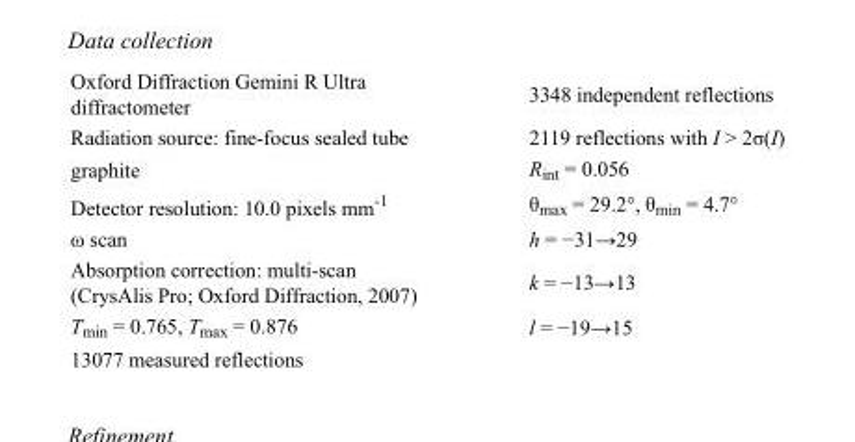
<table><tbody><tr><td>Oxford Diffraction Gemini R Ultra diffractometer</td><td>3348 independent reflections</td></tr><tr><td>Radiation source: fine-focus sealed tube</td><td>2119 reflections with I &gt; 2σ(I)</td></tr><tr><td>graphite</td><td>R<sub>int</sub> = 0.056</td></tr><tr><td>Detector resolution: 10.0 pixels mm<sup>-1</sup></td><td>θ<sub>max</sub> = 29.2°, θ<sub>min</sub> = 4.7°</td></tr><tr><td>ω scan</td><td>h = −31→29</td></tr><tr><td>Absorption correction: multi-scan (CrysAlis Pro; Oxford Diffraction, 2007)</td><td>k = −13→13</td></tr><tr><td>T<sub>min</sub> = 0.765, T<sub>max</sub> = 0.876</td><td>l = −19→15</td></tr><tr><td>13077 measured reflections</td><td></td></tr></tbody></table>